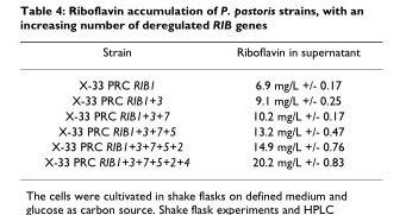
<table><thead><tr><td>Strain</td><td>Riboflavin in supernatant</td></tr></thead><tbody><tr><td>X-33 PRC RIB1</td><td>6.9 mg/L +/- 0.17</td></tr><tr><td>X-33 PRC RIB1+3</td><td>9.1 mg/L +/- 0.25</td></tr><tr><td>X-33 PRC RIB1+3+7</td><td>10.2 mg/L +/- 0.17</td></tr><tr><td>X-33 PRC RIB1+3+7+5</td><td>13.2 mg/L +/- 0.47</td></tr><tr><td>X-33 PRC RIB1+3+7+5+2</td><td>14.9 mg/L +/- 0.76</td></tr><tr><td>X-33 PRC RIB1+3+7+5+2+4</td><td>20.2 mg/L +/- 0.83</td></tr></tbody></table>